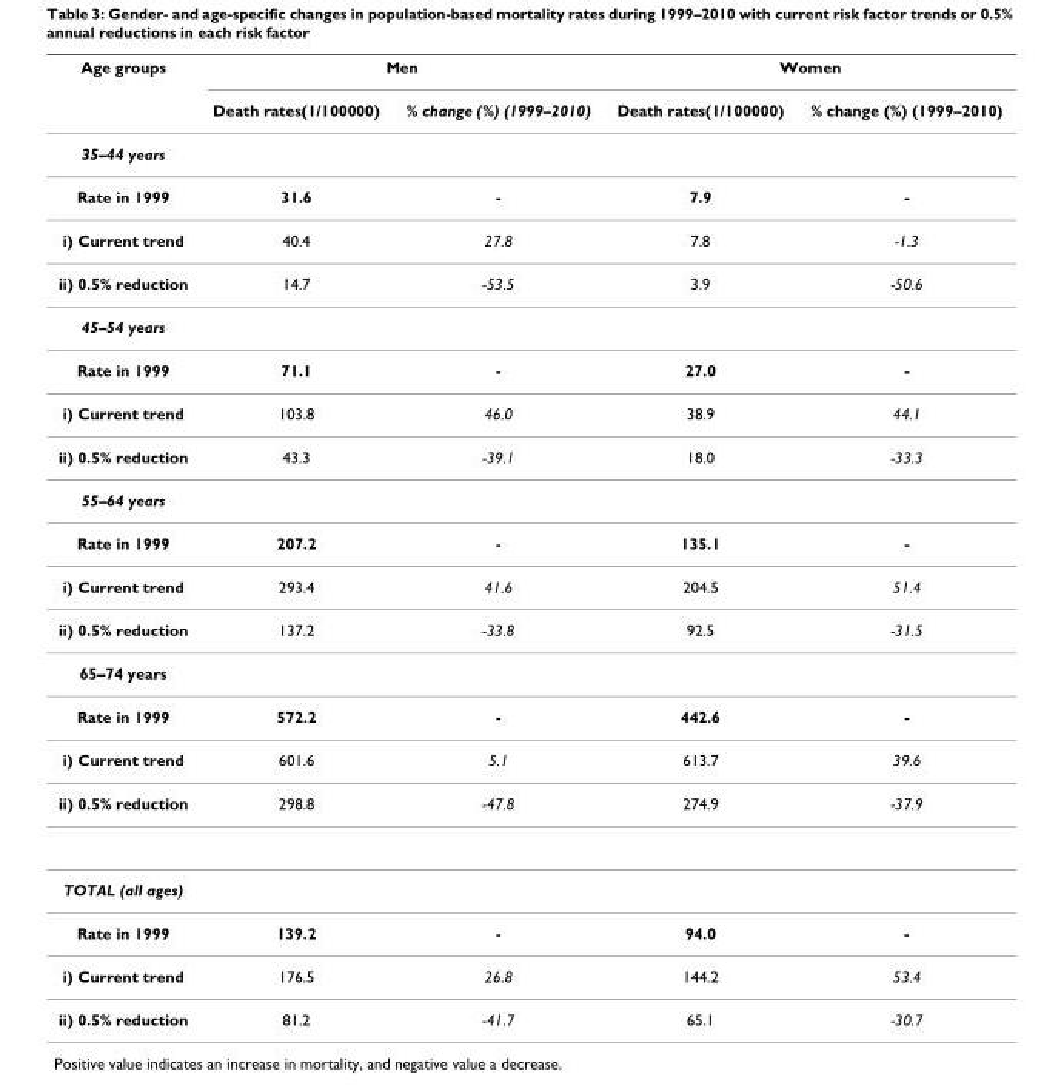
<table><thead><tr><td rowspan="2">Age groups</td><td colspan="2">Men</td><td colspan="2">Women</td></tr><tr><td>Death rates(1/100000)</td><td>% change (%) (1999–2010)</td><td>Death rates(1/100000)</td><td>% change (%) (1999–2010)</td></tr></thead><tbody><tr><td colspan="5">35–44 years</td></tr><tr><td>Rate in 1999</td><td>31.6</td><td>-</td><td>7.9</td><td>-</td></tr><tr><td>i) Current trend</td><td>40.4</td><td>27.8</td><td>7.8</td><td>-1.3</td></tr><tr><td>ii) 0.5% reduction</td><td>14.7</td><td>-53.5</td><td>3.9</td><td>-50.6</td></tr><tr><td colspan="5">45–54 years</td></tr><tr><td>Rate in 1999</td><td>71.1</td><td>-</td><td>27.0</td><td>-</td></tr><tr><td>i) Current trend</td><td>103.8</td><td>46.0</td><td>38.9</td><td>44.1</td></tr><tr><td>ii) 0.5% reduction</td><td>43.3</td><td>-39.1</td><td>18.0</td><td>-33.3</td></tr><tr><td colspan="5">55–64 years</td></tr><tr><td>Rate in 1999</td><td>207.2</td><td>-</td><td>135.1</td><td>-</td></tr><tr><td>i) Current trend</td><td>293.4</td><td>41.6</td><td>204.5</td><td>51.4</td></tr><tr><td>ii) 0.5% reduction</td><td>137.2</td><td>-33.8</td><td>92.5</td><td>-31.5</td></tr><tr><td colspan="5">65–74 years</td></tr><tr><td>Rate in 1999</td><td>572.2</td><td>-</td><td>442.6</td><td>-</td></tr><tr><td>i) Current trend</td><td>601.6</td><td>5.1</td><td>613.7</td><td>39.6</td></tr><tr><td>ii) 0.5% reduction</td><td>298.8</td><td>-47.8</td><td>274.9</td><td>-37.9</td></tr><tr><td colspan="5">TOTAL (all ages)</td></tr><tr><td>Rate in 1999</td><td>139.2</td><td>-</td><td>94.0</td><td>-</td></tr><tr><td>i) Current trend</td><td>176.5</td><td>26.8</td><td>144.2</td><td>53.4</td></tr><tr><td>ii) 0.5% reduction</td><td>81.2</td><td>-41.7</td><td>65.1</td><td>-30.7</td></tr></tbody></table>